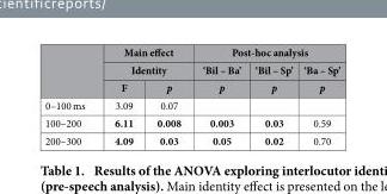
<table><thead><tr><td rowspan="3"></td><td rowspan="2" colspan="2">Main effect Identity</td><td colspan="3">Post-hoc analysis</td></tr><tr><td rowspan="2">‘Bil – Ba’ p</td><td rowspan="2">‘Bil – Sp’ p</td><td rowspan="2">‘Ba – Sp’ p</td></tr><tr><td>F</td><td>p</td></tr></thead><tbody><tr><td>0–100 ms</td><td>3.09</td><td>0.07</td><td></td><td></td><td></td></tr><tr><td>100–200</td><td>6.11</td><td>0.008</td><td>0.003</td><td>0.03</td><td>0.59</td></tr><tr><td>200–300</td><td>4.09</td><td>0.03</td><td>0.05</td><td>0.02</td><td>0.70</td></tr></tbody></table>